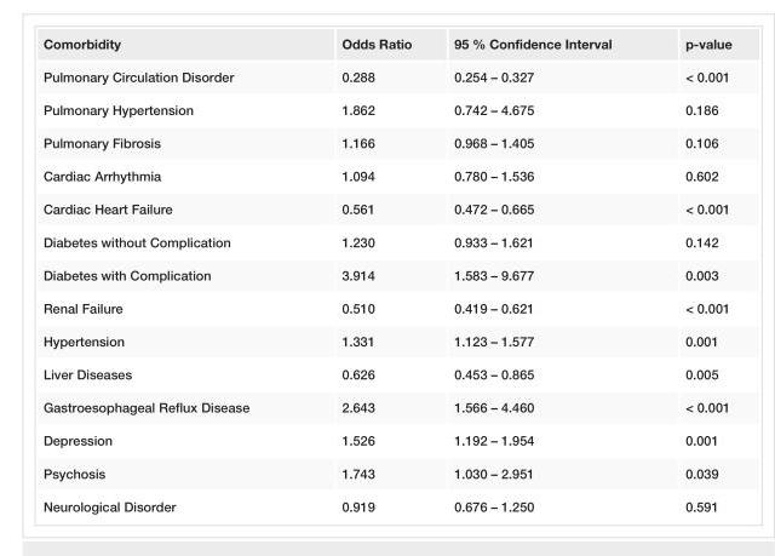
<table><tbody><tr><td>Comorbidity</td><td>Odds Ratio</td><td>95 % Confidence Interval</td><td>p-value</td></tr><tr><td>Pulmonary Circulation Disorder</td><td>0.288</td><td>0.254 – 0.327</td><td>&lt; 0.001</td></tr><tr><td>Pulmonary Hypertension</td><td>1.862</td><td>0.742 – 4.675</td><td>0.186</td></tr><tr><td>Pulmonary Fibrosis</td><td>1.166</td><td>0.968 – 1.405</td><td>0.106</td></tr><tr><td>Cardiac Arrhythmia</td><td>1.094</td><td>0.780 – 1.536</td><td>0.602</td></tr><tr><td>Cardiac Heart Failure</td><td>0.561</td><td>0.472 – 0.665</td><td>&lt; 0.001</td></tr><tr><td>Diabetes without Complication</td><td>1.230</td><td>0.933 – 1.621</td><td>0.142</td></tr><tr><td>Diabetes with Complication</td><td>3.914</td><td>1.583 – 9.677</td><td>0.003</td></tr><tr><td>Renal Failure</td><td>0.510</td><td>0.419 – 0.621</td><td>&lt; 0.001</td></tr><tr><td>Hypertension</td><td>1.331</td><td>1.123 – 1.577</td><td>0.001</td></tr><tr><td>Liver Diseases</td><td>0.626</td><td>0.453 – 0.865</td><td>0.005</td></tr><tr><td>Gastroesophageal Reflux Disease</td><td>2.643</td><td>1.566 – 4.460</td><td>&lt; 0.001</td></tr><tr><td>Depression</td><td>1.526</td><td>1.192 – 1.954</td><td>0.001</td></tr><tr><td>Psychosis</td><td>1.743</td><td>1.030 – 2.951</td><td>0.039</td></tr><tr><td>Neurological Disorder</td><td>0.919</td><td>0.676 – 1.250</td><td>0.591</td></tr></tbody></table>